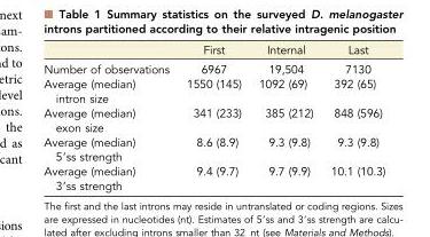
<table><thead><tr><td></td><td>First</td><td>Internal</td><td>Last</td></tr></thead><tbody><tr><td>Number of observations</td><td>6967</td><td>19,504</td><td>7130</td></tr><tr><td>Average (median) intron size</td><td>1550 (145)</td><td>1092 (69)</td><td>392 (65)</td></tr><tr><td>Average (median) exon size</td><td>341 (233)</td><td>385 (212)</td><td>848 (596)</td></tr><tr><td>Average (median) 5′ss strength</td><td>8.6 (8.9)</td><td>9.3 (9.8)</td><td>9.3 (9.8)</td></tr><tr><td>Average (median) 3′ss strength</td><td>9.4 (9.7)</td><td>9.7 (9.9)</td><td>10.1 (10.3)</td></tr></tbody></table>